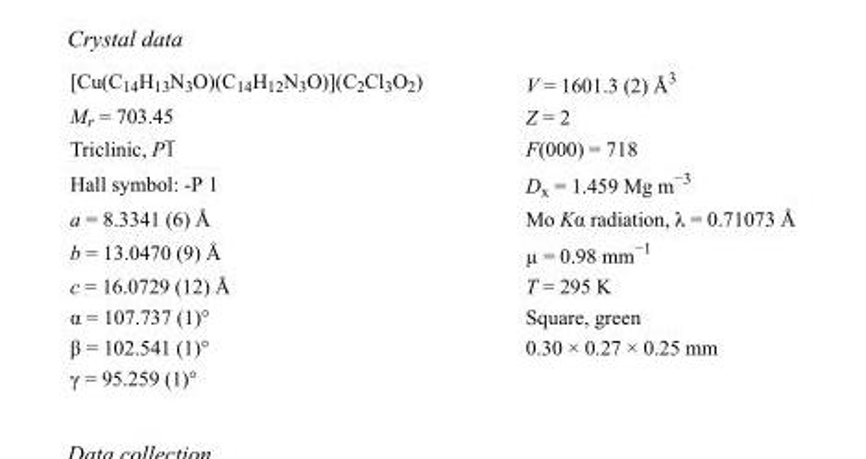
<table><tbody><tr><td>[Cu(C<sub>14</sub>H<sub>13</sub>N<sub>3</sub>O)(C<sub>14</sub>H<sub>12</sub>N<sub>3</sub>O)](C<sub>2</sub>Cl<sub>3</sub>O<sub>2</sub>)</td><td>V = 1601.3 (2) Å<sup>3</sup></td></tr><tr><td>M<sub>r</sub> = 703.45</td><td>Z = 2</td></tr><tr><td>Triclinic, P1</td><td>F(000) = 718</td></tr><tr><td>Hall symbol: -P 1</td><td>D<sub>x</sub> = 1.459 Mg m<sup>−3</sup></td></tr><tr><td>a = 8.3341 (6) Å</td><td>Mo Kα radiation, λ = 0.71073 Å</td></tr><tr><td>b = 13.0470 (9) Å</td><td>µ = 0.98 mm<sup>−1</sup></td></tr><tr><td>c = 16.0729 (12) Å</td><td>T = 295 K</td></tr><tr><td>α = 107.737 (1)°</td><td>Square, green</td></tr><tr><td>β = 102.541 (1)°</td><td>0.30 × 0.27 × 0.25 mm</td></tr><tr><td>γ = 95.259 (1)°</td><td></td></tr></tbody></table>